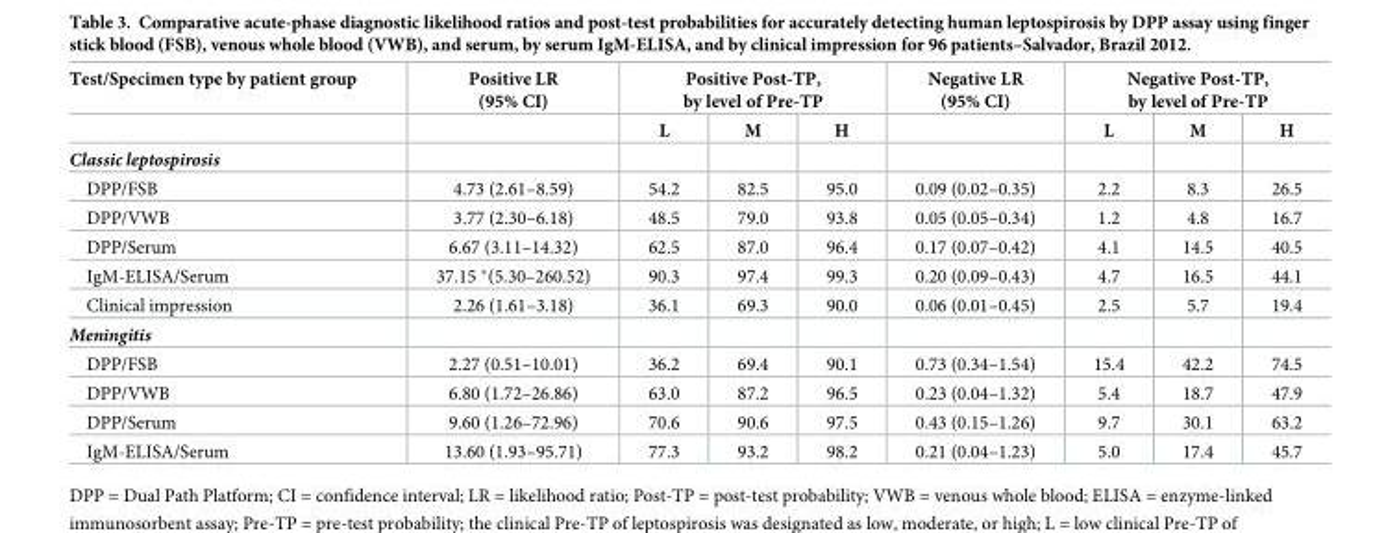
<table><thead><tr><td rowspan="2">Test/Specimen type by patient group</td><td rowspan="2">Positive LR (95% CI)</td><td colspan="3">Positive Post-TP, by level of Pre-TP</td><td rowspan="2">Negative LR (95% CI)</td><td colspan="3">Negative Post-TP, by level of Pre-TP</td></tr><tr><td>L</td><td>M</td><td>H</td><td>L</td><td>M</td><td>H</td></tr></thead><tbody><tr><td colspan="9">Classic leptospirosis</td></tr><tr><td>DPP/FSB</td><td>4.73 (2.61–8.59)</td><td>54.2</td><td>82.5</td><td>95.0</td><td>0.09 (0.02–0.35)</td><td>2.2</td><td>8.3</td><td>26.5</td></tr><tr><td>DPP/VWB</td><td>3.77 (2.30–6.18)</td><td>48.5</td><td>79.0</td><td>93.8</td><td>0.05 (0.05–0.34)</td><td>1.2</td><td>4.8</td><td>16.7</td></tr><tr><td>DPP/Serum</td><td>6.67 (3.11–14.32)</td><td>62.5</td><td>87.0</td><td>96.4</td><td>0.17 (0.07–0.42)</td><td>4.1</td><td>14.5</td><td>40.5</td></tr><tr><td>IgM-ELISA/Serum</td><td>37.15 *(5.30–260.52)</td><td>90.3</td><td>97.4</td><td>99.3</td><td>0.20 (0.09–0.43)</td><td>4.7</td><td>16.5</td><td>44.1</td></tr><tr><td>Clinical impression</td><td>2.26 (1.61–3.18)</td><td>36.1</td><td>69.3</td><td>90.0</td><td>0.06 (0.01–0.45)</td><td>2.5</td><td>5.7</td><td>19.4</td></tr><tr><td colspan="9">Meningitis</td></tr><tr><td>DPP/FSB</td><td>2.27 (0.51–10.01)</td><td>36.2</td><td>69.4</td><td>90.1</td><td>0.73 (0.34–1.54)</td><td>15.4</td><td>42.2</td><td>74.5</td></tr><tr><td>DPP/VWB</td><td>6.80 (1.72–26.86)</td><td>63.0</td><td>87.2</td><td>96.5</td><td>0.23 (0.04–1.32)</td><td>5.4</td><td>18.7</td><td>47.9</td></tr><tr><td>DPP/Serum</td><td>9.60 (1.26–72.96)</td><td>70.6</td><td>90.6</td><td>97.5</td><td>0.43 (0.15–1.26)</td><td>9.7</td><td>30.1</td><td>63.2</td></tr><tr><td>IgM-ELISA/Serum</td><td>13.60 (1.93–95.71)</td><td>77.3</td><td>93.2</td><td>98.2</td><td>0.21 (0.04–1.23)</td><td>5.0</td><td>17.4</td><td>45.7</td></tr></tbody></table>